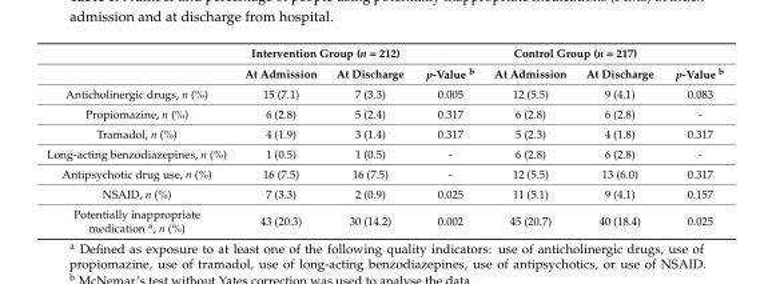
<table><thead><tr><td rowspan="2"></td><td colspan="2">Intervention Group (n = 212)</td><td colspan="4">Control Group (n = 217)</td></tr><tr><td>At Admission</td><td>At Discharge</td><td>p-Value <sup>b</sup></td><td>At Admission</td><td>At Discharge</td><td>p-Value <sup>b</sup></td></tr></thead><tbody><tr><td>Anticholinergic drugs, n (%)</td><td>15 (7.1)</td><td>7 (3.3)</td><td>0.005</td><td>12 (5.5)</td><td>9 (4.1)</td><td>0.083</td></tr><tr><td>Propiomazine, n (%)</td><td>6 (2.8)</td><td>5 (2.4)</td><td>0.317</td><td>6 (2.8)</td><td>6 (2.8)</td><td>-</td></tr><tr><td>Tramadol, n (%)</td><td>4 (1.9)</td><td>3 (1.4)</td><td>0.317</td><td>5 (2.3)</td><td>4 (1.8)</td><td>0.317</td></tr><tr><td>Long-acting benzodiazepines, n (%)</td><td>1 (0.5)</td><td>1 (0.5)</td><td>-</td><td>6 (2.8)</td><td>6 (2.8)</td><td>-</td></tr><tr><td>Antipsychotic drug use, n (%)</td><td>16 (7.5)</td><td>16 (7.5)</td><td>-</td><td>12 (5.5)</td><td>13 (6.0)</td><td>0.317</td></tr><tr><td>NSAID, n (%)</td><td>7 (3.3)</td><td>2 (0.9)</td><td>0.025</td><td>11 (5.1)</td><td>9 (4.1)</td><td>0.157</td></tr><tr><td>Potentially inappropriate medication <sup>a</sup>, n (%)</td><td>43 (20.3)</td><td>30 (14.2)</td><td>0.002</td><td>45 (20.7)</td><td>40 (18.4)</td><td>0.025</td></tr></tbody></table>